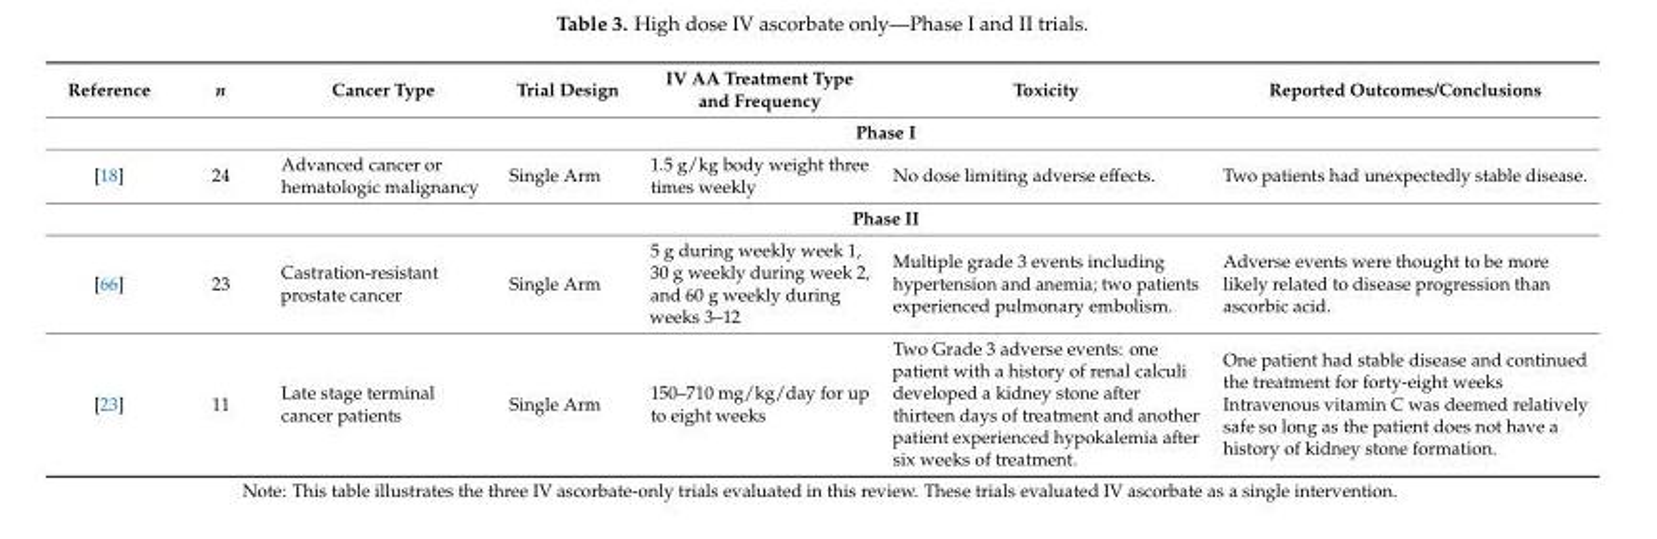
<table><thead><tr><td>Reference</td><td>n</td><td>Cancer Type</td><td>Trial Design</td><td>IV AA Treatment Type and Frequency</td><td>Toxicity</td><td>Reported Outcomes/Conclusions</td></tr></thead><tbody><tr><td></td><td colspan="6">Phase I</td></tr><tr><td rowspan="2">[18]</td><td>24</td><td>Advanced cancer or hematologic malignancy</td><td>Single Arm</td><td>1.5 g/kg body weight three times weekly</td><td>No dose limiting adverse effects.</td><td>Two patients had unexpectedly stable disease.</td></tr><tr><td colspan="6">Phase II</td></tr><tr><td>[66]</td><td>23</td><td>Castration-resistant prostate cancer</td><td>Single Arm</td><td>5 g during weekly week 1, 30 g weekly during week 2, and 60 g weekly during weeks 3–12</td><td>Multiple grade 3 events including hypertension and anemia; two patients experienced pulmonary embolism.</td><td>Adverse events were thought to be more likely related to disease progression than ascorbic acid.</td></tr><tr><td>[23]</td><td>11</td><td>Late stage terminal cancer patients</td><td>Single Arm</td><td>150–710 mg/kg/day for up to eight weeks</td><td>Two Grade 3 adverse events: one patient with a history of renal calculi developed a kidney stone after thirteen days of treatment and another patient experienced hypokalemia after six weeks of treatment.</td><td>One patient had stable disease and continued the treatment for forty-eight weeks Intravenous vitamin C was deemed relatively safe so long as the patient does not have a history of kidney stone formation.</td></tr></tbody></table>